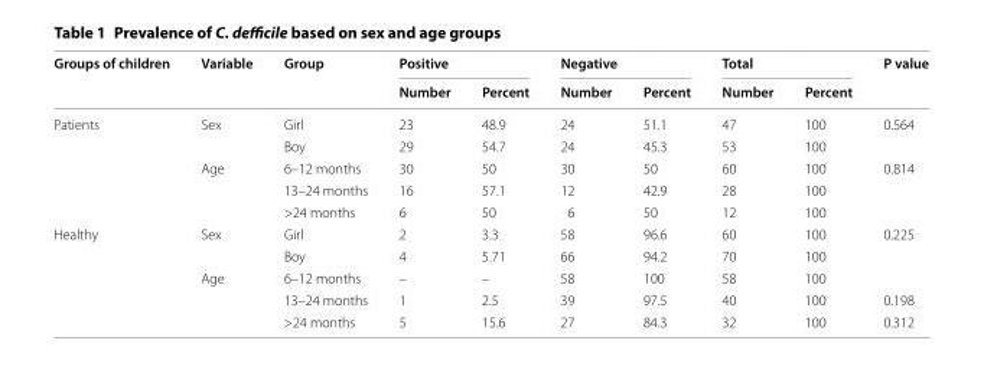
<table><thead><tr><td rowspan="2">Groups of children</td><td rowspan="2">Variable</td><td rowspan="2">Group</td><td colspan="2">Positive</td><td colspan="2">Negative</td><td colspan="2">Total</td><td rowspan="2">P value</td></tr><tr><td>Number</td><td>Percent</td><td>Number</td><td>Percent</td><td>Number</td><td>Percent</td></tr></thead><tbody><tr><td rowspan="5">Patients</td><td rowspan="2">Sex</td><td>Girl</td><td>23</td><td>48.9</td><td>24</td><td>51.1</td><td>47</td><td>100</td><td rowspan="2">0.564</td></tr><tr><td>Boy</td><td>29</td><td>54.7</td><td>24</td><td>45.3</td><td>53</td><td>100</td></tr><tr><td rowspan="3">Age</td><td>6–12 months</td><td>30</td><td>50</td><td>30</td><td>50</td><td>60</td><td>100</td><td rowspan="3">0.814</td></tr><tr><td>13–24 months</td><td>16</td><td>57.1</td><td>12</td><td>42.9</td><td>28</td><td>100</td></tr><tr><td>&gt;24 months</td><td>6</td><td>50</td><td>6</td><td>50</td><td>12</td><td>100</td></tr><tr><td rowspan="5">Healthy</td><td rowspan="2">Sex</td><td>Girl</td><td>2</td><td>3.3</td><td>58</td><td>96.6</td><td>60</td><td>100</td><td rowspan="3">0.225</td></tr><tr><td>Boy</td><td>4</td><td>5.71</td><td>66</td><td>94.2</td><td>70</td><td>100</td></tr><tr><td rowspan="3">Age</td><td>6–12 months</td><td>–</td><td>–</td><td>58</td><td>100</td><td>58</td><td>100</td></tr><tr><td>13–24 months</td><td>1</td><td>2.5</td><td>39</td><td>97.5</td><td>40</td><td>100</td><td>0.198</td></tr><tr><td>&gt;24 months</td><td>5</td><td>15.6</td><td>27</td><td>84.3</td><td>32</td><td>100</td><td>0.312</td></tr></tbody></table>